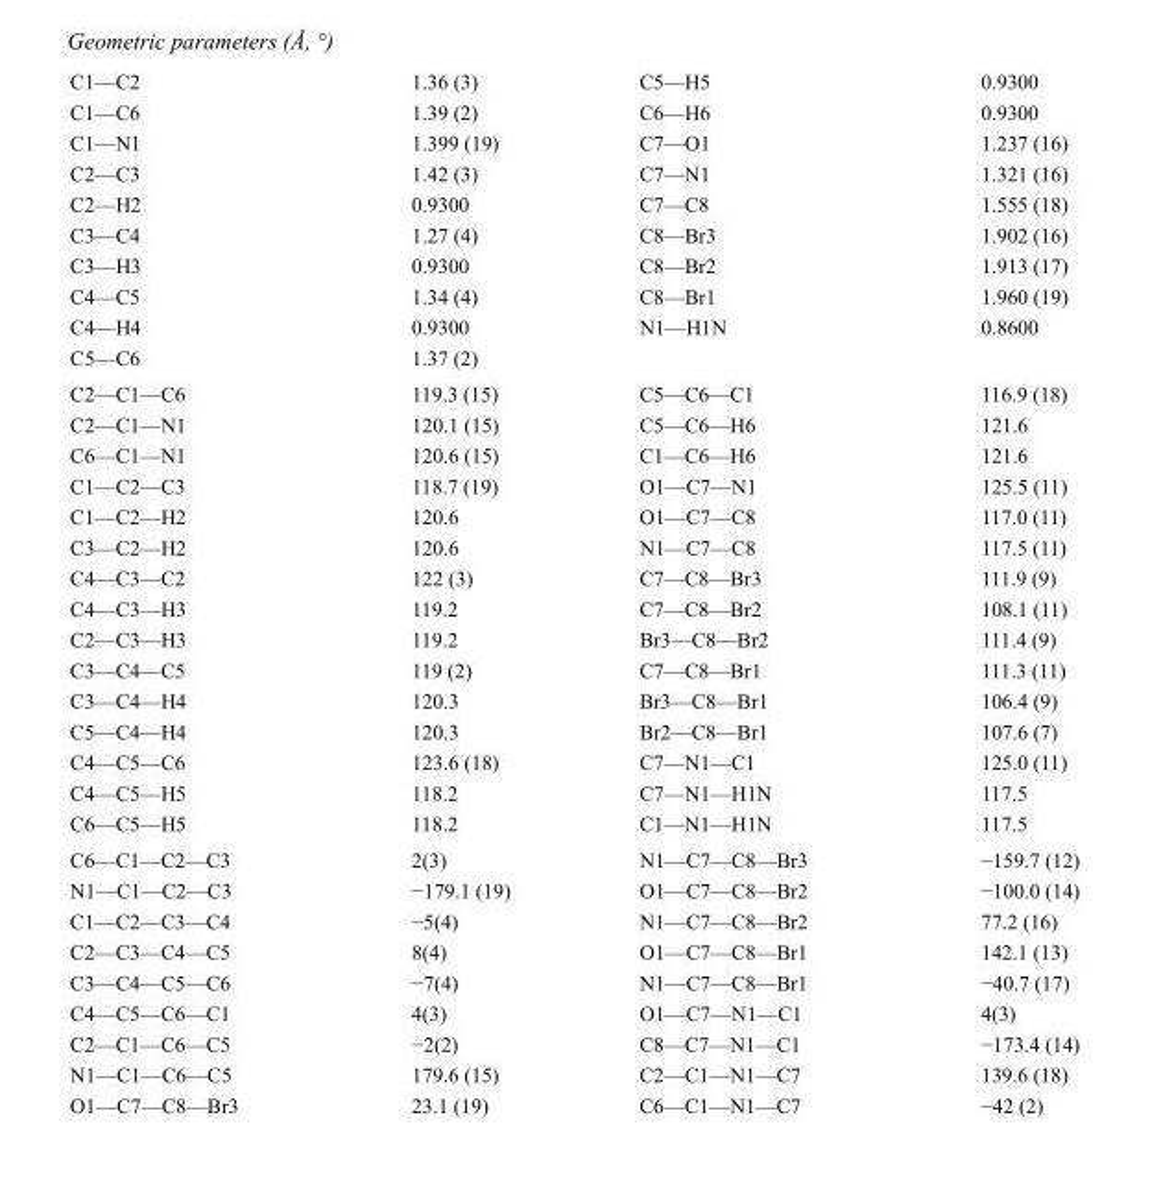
<table><tbody><tr><td>C1—C2</td><td>1.36 (3)</td><td>C5—H5</td><td>0.9300</td></tr><tr><td>C1—C6</td><td>1.39 (2)</td><td>C6—H6</td><td>0.9300</td></tr><tr><td>C1—N1</td><td>1.399 (19)</td><td>C7—O1</td><td>1.237 (16)</td></tr><tr><td>C2—C3</td><td>1.42 (3)</td><td>C7—N1</td><td>1.321 (16)</td></tr><tr><td>C2—H2</td><td>0.9300</td><td>C7—C8</td><td>1.555 (18)</td></tr><tr><td>C3—C4</td><td>1.27 (4)</td><td>C8—Br3</td><td>1.902 (16)</td></tr><tr><td>C3—H3</td><td>0.9300</td><td>C8—Br2</td><td>1.913 (17)</td></tr><tr><td>C4—C5</td><td>1.34 (4)</td><td>C8—Br1</td><td>1.960 (19)</td></tr><tr><td>C4—H4</td><td>0.9300</td><td>N1—H1N</td><td>0.8600</td></tr><tr><td>C5—C6</td><td>1.37 (2)</td><td></td><td></td></tr><tr><td>C2—C1—C6</td><td>119.3 (15)</td><td>C5—C6—C1</td><td>116.9 (18)</td></tr><tr><td>C2—C1—N1</td><td>120.1 (15)</td><td>C5—C6—H6</td><td>121.6</td></tr><tr><td>C6—C1—N1</td><td>120.6 (15)</td><td>C1—C6—H6</td><td>121.6</td></tr><tr><td>C1—C2—C3</td><td>118.7 (19)</td><td>O1—C7—N1</td><td>125.5 (11)</td></tr><tr><td>C1—C2—H2</td><td>120.6</td><td>O1—C7—C8</td><td>117.0 (11)</td></tr><tr><td>C3—C2—H2</td><td>120.6</td><td>N1—C7—C8</td><td>117.5 (11)</td></tr><tr><td>C4—C3—C2</td><td>122 (3)</td><td>C7—C8—Br3</td><td>111.9 (9)</td></tr><tr><td>C4—C3—H3</td><td>119.2</td><td>C7—C8—Br2</td><td>108.1 (11)</td></tr><tr><td>C2—C3—H3</td><td>119.2</td><td>Br3—C8—Br2</td><td>111.4 (9)</td></tr><tr><td>C3—C4—C5</td><td>119 (2)</td><td>C7—C8—Br1</td><td>111.3 (11)</td></tr><tr><td>C3—C4—H4</td><td>120.3</td><td>Br3—C8—Br1</td><td>106.4 (9)</td></tr><tr><td>C5—C4—H4</td><td>120.3</td><td>Br2—C8—Br1</td><td>107.6 (7)</td></tr><tr><td>C4—C5—C6</td><td>123.6 (18)</td><td>C7—N1—C1</td><td>125.0 (11)</td></tr><tr><td>C4—C5—H5</td><td>118.2</td><td>C7—N1—H1N</td><td>117.5</td></tr><tr><td>C6—C5—H5</td><td>118.2</td><td>C1—N1—H1N</td><td>117.5</td></tr><tr><td>C6—C1—C2—C3</td><td>2(3)</td><td>N1—C7—C8—Br3</td><td>−159.7 (12)</td></tr><tr><td>N1—C1—C2—C3</td><td>−179.1 (19)</td><td>O1—C7—C8—Br2</td><td>−100.0 (14)</td></tr><tr><td>C1—C2—C3—C4</td><td>−5(4)</td><td>N1—C7—C8—Br2</td><td>77.2 (16)</td></tr><tr><td>C2—C3—C4—C5</td><td>8(4)</td><td>O1—C7—C8—Br1</td><td>142.1 (13)</td></tr><tr><td>C3—C4—C5—C6</td><td>−7(4)</td><td>N1—C7—C8—Br1</td><td>−40.7 (17)</td></tr><tr><td>C4—C5—C6—C1</td><td>4(3)</td><td>O1—C7—N1—C1</td><td>4(3)</td></tr><tr><td>C2—C1—C6—C5</td><td>−2(2)</td><td>C8—C7—N1—C1</td><td>−173.4 (14)</td></tr><tr><td>N1—C1—C6—C5</td><td>179.6 (15)</td><td>C2—C1—N1—C7</td><td>139.6 (18)</td></tr><tr><td>O1—C7—C8—Br3</td><td>23.1 (19)</td><td>C6—C1—N1—C7</td><td>−42 (2)</td></tr></tbody></table>